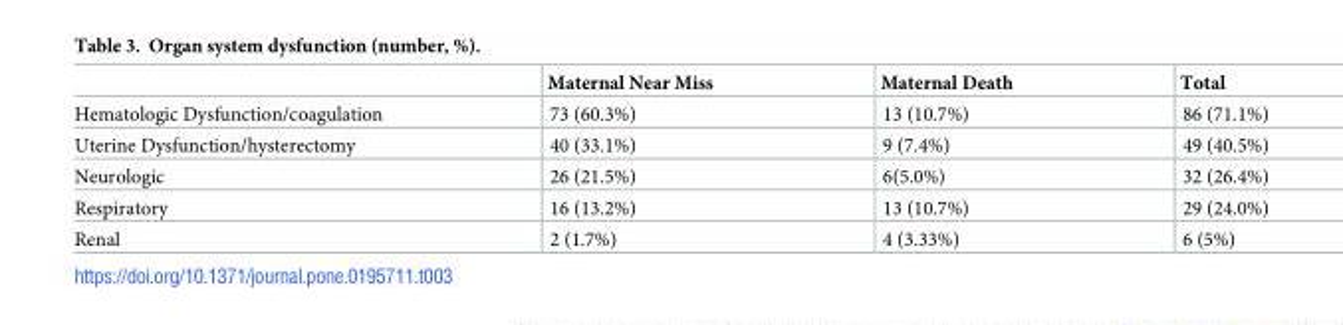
<table><thead><tr><td></td><td>Maternal Near Miss</td><td>Maternal Death</td><td>Total</td></tr></thead><tbody><tr><td>Hematologic Dysfunction/coagulation</td><td>73 (60.3%)</td><td>13 (10.7%)</td><td>86 (71.1%)</td></tr><tr><td>Uterine Dysfunction/hysterectomy</td><td>40 (33.1%)</td><td>9 (7.4%)</td><td>49 (40.5%)</td></tr><tr><td>Neurologic</td><td>26 (21.5%)</td><td>6(5.0%)</td><td>32 (26.4%)</td></tr><tr><td>Respiratory</td><td>16 (13.2%)</td><td>13 (10.7%)</td><td>29 (24.0%)</td></tr><tr><td>Renal</td><td>2 (1.7%)</td><td>4 (3.33%)</td><td>6 (5%)</td></tr></tbody></table>